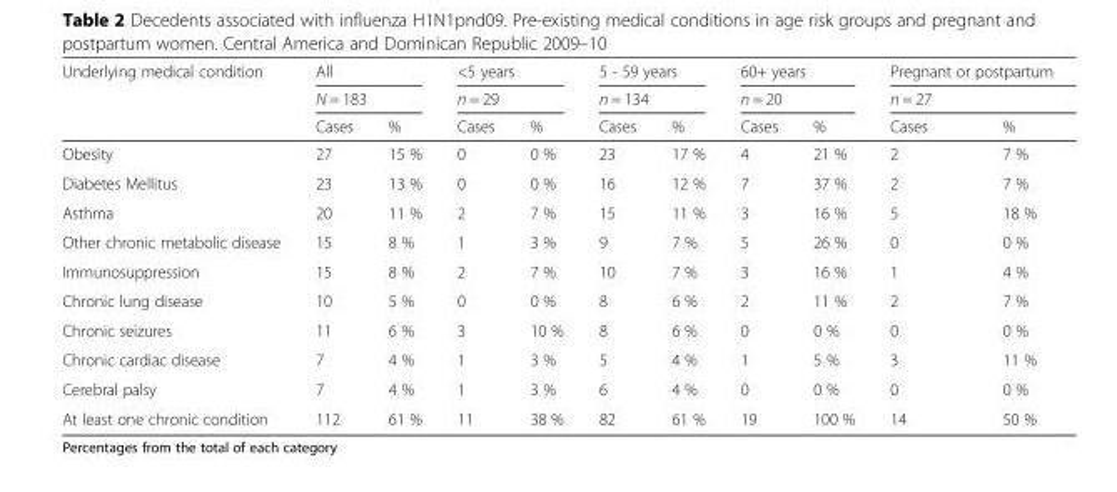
<table><thead><tr><td rowspan="3">Underlying medical condition</td><td rowspan="2" colspan="2">All N = 183</td><td rowspan="2" colspan="2">&lt;5 years n = 29</td><td rowspan="2" colspan="2">5 - 59 years n = 134</td><td rowspan="2" colspan="2">60+ years n = 20</td><td rowspan="2" colspan="2">Pregnant or postpartum n = 27</td></tr><tr></tr><tr><td>Cases</td><td>%</td><td>Cases</td><td>%</td><td>Cases</td><td>%</td><td>Cases</td><td>%</td><td>Cases</td><td>%</td></tr></thead><tbody><tr><td>Obesity</td><td>27</td><td>15 %</td><td>0</td><td>0 %</td><td>23</td><td>17 %</td><td>4</td><td>21 %</td><td>2</td><td>7 %</td></tr><tr><td>Diabetes Mellitus</td><td>23</td><td>13 %</td><td>0</td><td>0 %</td><td>16</td><td>12 %</td><td>7</td><td>37 %</td><td>2</td><td>7 %</td></tr><tr><td>Asthma</td><td>20</td><td>11 %</td><td>2</td><td>7 %</td><td>15</td><td>11 %</td><td>3</td><td>16 %</td><td>5</td><td>18 %</td></tr><tr><td>Other chronic metabolic disease</td><td>15</td><td>8 %</td><td>1</td><td>3 %</td><td>9</td><td>7 %</td><td>5</td><td>26 %</td><td>0</td><td>0 %</td></tr><tr><td>Immunosuppression</td><td>15</td><td>8 %</td><td>2</td><td>7 %</td><td>10</td><td>7 %</td><td>3</td><td>16 %</td><td>1</td><td>4 %</td></tr><tr><td>Chronic lung disease</td><td>10</td><td>5 %</td><td>0</td><td>0 %</td><td>8</td><td>6 %</td><td>2</td><td>11 %</td><td>2</td><td>7 %</td></tr><tr><td>Chronic seizures</td><td>11</td><td>6 %</td><td>3</td><td>10 %</td><td>8</td><td>6 %</td><td>0</td><td>0 %</td><td>0</td><td>0 %</td></tr><tr><td>Chronic cardiac disease</td><td>7</td><td>4 %</td><td>1</td><td>3 %</td><td>5</td><td>4 %</td><td>1</td><td>5 %</td><td>3</td><td>11 %</td></tr><tr><td>Cerebral palsy</td><td>7</td><td>4 %</td><td>1</td><td>3 %</td><td>6</td><td>4 %</td><td>0</td><td>0 %</td><td>0</td><td>0 %</td></tr><tr><td>At least one chronic condition</td><td>112</td><td>61 %</td><td>11</td><td>38 %</td><td>82</td><td>61 %</td><td>19</td><td>100 %</td><td>14</td><td>50 %</td></tr></tbody></table>